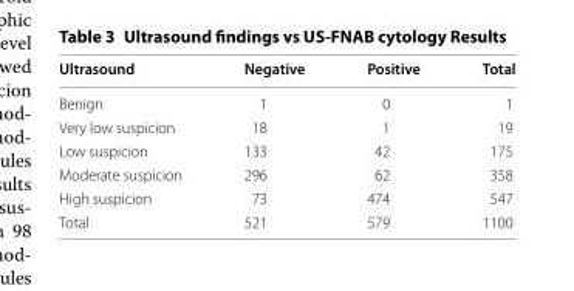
<table><thead><tr><td>Ultrasound</td><td>Negative</td><td>Positive</td><td>Total</td></tr></thead><tbody><tr><td>Benign</td><td>1</td><td>0</td><td>1</td></tr><tr><td>Very low suspicion</td><td>18</td><td>1</td><td>19</td></tr><tr><td>Low suspicion</td><td>133</td><td>42</td><td>175</td></tr><tr><td>Moderate suspicion</td><td>296</td><td>62</td><td>358</td></tr><tr><td>High suspicion</td><td>73</td><td>474</td><td>547</td></tr><tr><td>Total</td><td>521</td><td>579</td><td>1100</td></tr></tbody></table>